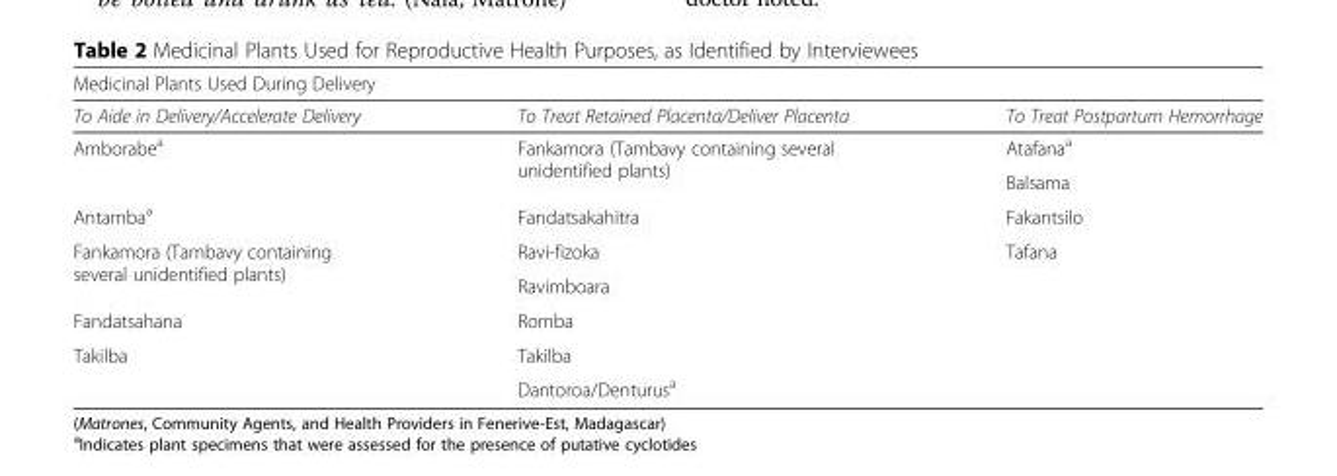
<table><thead><tr><td colspan="3">Medicinal Plants Used During Delivery</td></tr><tr><td>To Aide in Delivery/Accelerate Delivery</td><td>To Treat Retained Placenta/Deliver Placenta</td><td>To Treat Postpartum Hemorrhage</td></tr></thead><tbody><tr><td rowspan="2">Amborabe<sup>a</sup></td><td rowspan="2">Fankamora (Tambavy containing several unidentified plants)</td><td>Atafana<sup>a</sup></td></tr><tr><td>Balsama</td></tr><tr><td>Antamba<sup>a</sup></td><td>Fandatsakahitra</td><td>Fakantsilo</td></tr><tr><td rowspan="2">Fankamora (Tambavy containing several unidentified plants)</td><td>Ravi-fizoka</td><td rowspan="5">Tafana</td></tr><tr><td>Ravimboara</td></tr><tr><td>Fandatsahana</td><td>Romba</td></tr><tr><td rowspan="2">Takilba</td><td>Takilba</td></tr><tr><td>Dantoroa/Denturus<sup>a</sup></td></tr></tbody></table>